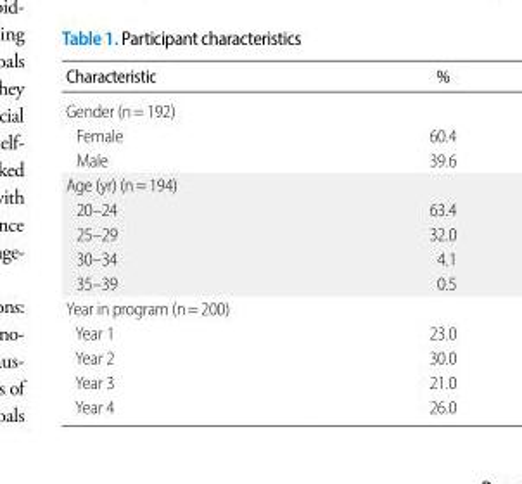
<table><thead><tr><td>Characteristic</td><td>%</td></tr></thead><tbody><tr><td colspan="2">Gender (n=192)</td></tr><tr><td>Female</td><td>60.4</td></tr><tr><td>Male</td><td>39.6</td></tr><tr><td colspan="2">Age (yr) (n=194)</td></tr><tr><td>20–24</td><td>63.4</td></tr><tr><td>25–29</td><td>32.0</td></tr><tr><td>30–34</td><td>4.1</td></tr><tr><td>35–39</td><td>0.5</td></tr><tr><td colspan="2">Year in program (n=200)</td></tr><tr><td>Year 1</td><td>23.0</td></tr><tr><td>Year 2</td><td>30.0</td></tr><tr><td>Year 3</td><td>21.0</td></tr><tr><td>Year 4</td><td>26.0</td></tr></tbody></table>